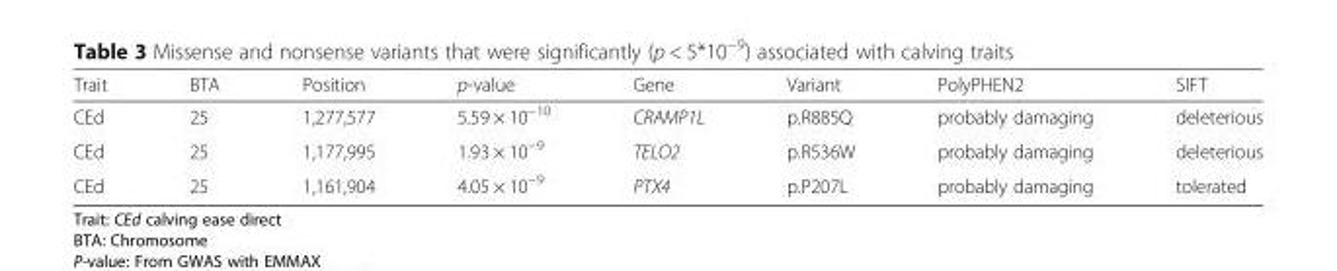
<table><thead><tr><td>Trait</td><td>BTA</td><td>Position</td><td>p-value</td><td>Gene</td><td>Variant</td><td>PolyPHEN2</td><td>SIFT</td></tr></thead><tbody><tr><td>CEd</td><td>25</td><td>1,277,577</td><td>5.59 × 10<sup>−10</sup></td><td>CRAMP1L</td><td>p.R885Q</td><td>probably damaging</td><td>deleterious</td></tr><tr><td>CEd</td><td>25</td><td>1,177,995</td><td>1.93 × 10<sup>−9</sup></td><td>TELO2</td><td>p.R536W</td><td>probably damaging</td><td>deleterious</td></tr><tr><td>CEd</td><td>25</td><td>1,161,904</td><td>4.05 × 10<sup>−9</sup></td><td>PTX4</td><td>p.P207L</td><td>probably damaging</td><td>tolerated</td></tr></tbody></table>